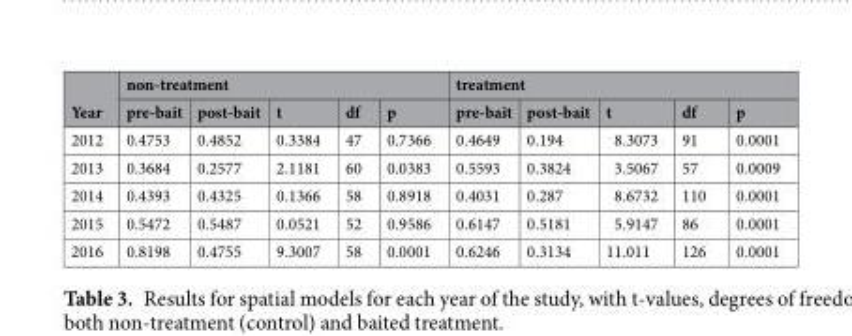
<table><thead><tr><td rowspan="2">Year</td><td colspan="5">non-treatment</td><td colspan="5">treatment</td></tr><tr><td>pre-bait</td><td>post-bait</td><td>t</td><td>df</td><td>p</td><td>pre-bait</td><td>post-bait</td><td>t</td><td>df</td><td>p</td></tr></thead><tbody><tr><td>2012</td><td>0.4753</td><td>0.4852</td><td>0.3384</td><td>47</td><td>0.7366</td><td>0.4649</td><td>0.194</td><td>8.3073</td><td>91</td><td>0.0001</td></tr><tr><td>2013</td><td>0.3684</td><td>0.2577</td><td>2.1181</td><td>60</td><td>0.0383</td><td>0.5593</td><td>0.3824</td><td>3.5067</td><td>57</td><td>0.0009</td></tr><tr><td>2014</td><td>0.4393</td><td>0.4325</td><td>0.1366</td><td>58</td><td>0.8918</td><td>0.4031</td><td>0.287</td><td>8.6732</td><td>110</td><td>0.0001</td></tr><tr><td>2015</td><td>0.5472</td><td>0.5487</td><td>0.0521</td><td>52</td><td>0.9586</td><td>0.6147</td><td>0.5181</td><td>5.9147</td><td>86</td><td>0.0001</td></tr><tr><td>2016</td><td>0.8198</td><td>0.4755</td><td>9.3007</td><td>58</td><td>0.0001</td><td>0.6246</td><td>0.3134</td><td>11.011</td><td>126</td><td>0.0001</td></tr></tbody></table>